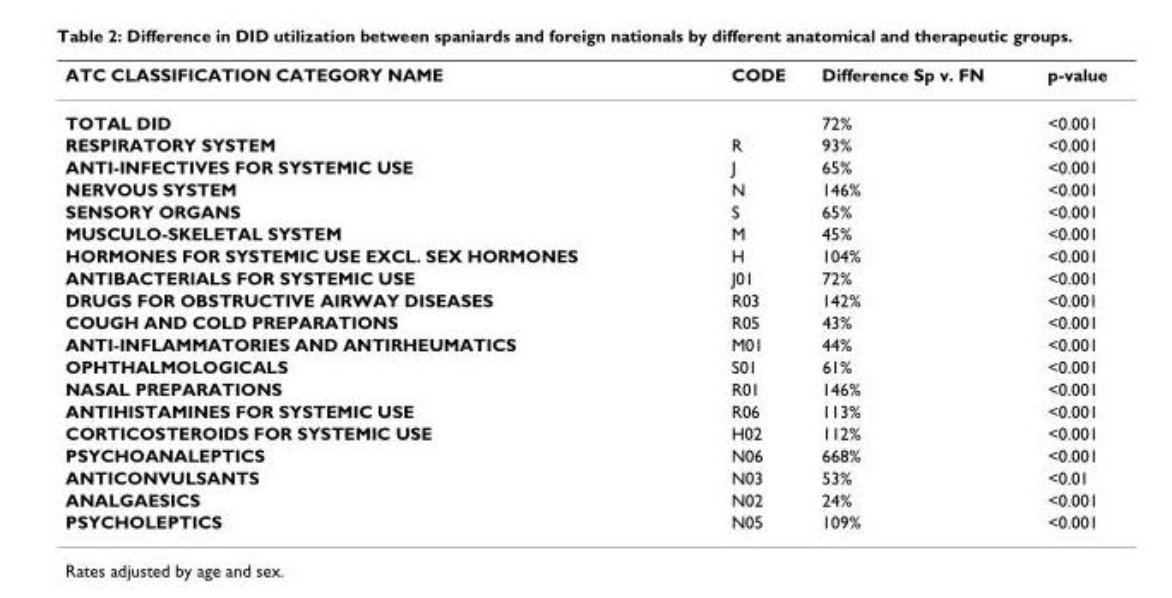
<table><thead><tr><td>ATC CLASSIFICATION CATEGORY NAME</td><td>CODE</td><td>Difference Sp v. FN</td><td>p-value</td></tr></thead><tbody><tr><td>TOTAL DID</td><td></td><td>72%</td><td>&lt;0.001</td></tr><tr><td>RESPIRATORY SYSTEM</td><td>R</td><td>93%</td><td>&lt;0.001</td></tr><tr><td>ANTI-INFECTIVES FOR SYSTEMIC USE</td><td>J</td><td>65%</td><td>&lt;0.001</td></tr><tr><td>NERVOUS SYSTEM</td><td>N</td><td>146%</td><td>&lt;0.001</td></tr><tr><td>SENSORY ORGANS</td><td>S</td><td>65%</td><td>&lt;0.001</td></tr><tr><td>MUSCULO-SKELETAL SYSTEM</td><td>M</td><td>45%</td><td>&lt;0.001</td></tr><tr><td>HORMONES FOR SYSTEMIC USE EXCL. SEX HORMONES</td><td>H</td><td>104%</td><td>&lt;0.001</td></tr><tr><td>ANTIBACTERIALS FOR SYSTEMIC USE</td><td>J01</td><td>72%</td><td>&lt;0.001</td></tr><tr><td>DRUGS FOR OBSTRUCTIVE AIRWAY DISEASES</td><td>R03</td><td>142%</td><td>&lt;0.001</td></tr><tr><td>COUGH AND COLD PREPARATIONS</td><td>R05</td><td>43%</td><td>&lt;0.001</td></tr><tr><td>ANTI-INFLAMMATORIES AND ANTIRHEUMATICS</td><td>M01</td><td>44%</td><td>&lt;0.001</td></tr><tr><td>OPHTHALMOLOGICALS</td><td>S01</td><td>61%</td><td>&lt;0.001</td></tr><tr><td>NASAL PREPARATIONS</td><td>R01</td><td>146%</td><td>&lt;0.001</td></tr><tr><td>ANTIHISTAMINES FOR SYSTEMIC USE</td><td>R06</td><td>113%</td><td>&lt;0.001</td></tr><tr><td>CORTICOSTEROIDS FOR SYSTEMIC USE</td><td>H02</td><td>112%</td><td>&lt;0.001</td></tr><tr><td>PSYCHOANALEPTICS</td><td>N06</td><td>668%</td><td>&lt;0.001</td></tr><tr><td>ANTICONVULSANTS</td><td>N03</td><td>53%</td><td>&lt;0.01</td></tr><tr><td>ANALGAESICS</td><td>N02</td><td>24%</td><td>&lt;0.001</td></tr><tr><td>PSYCHOLEPTICS</td><td>N05</td><td>109%</td><td>&lt;0.001</td></tr></tbody></table>